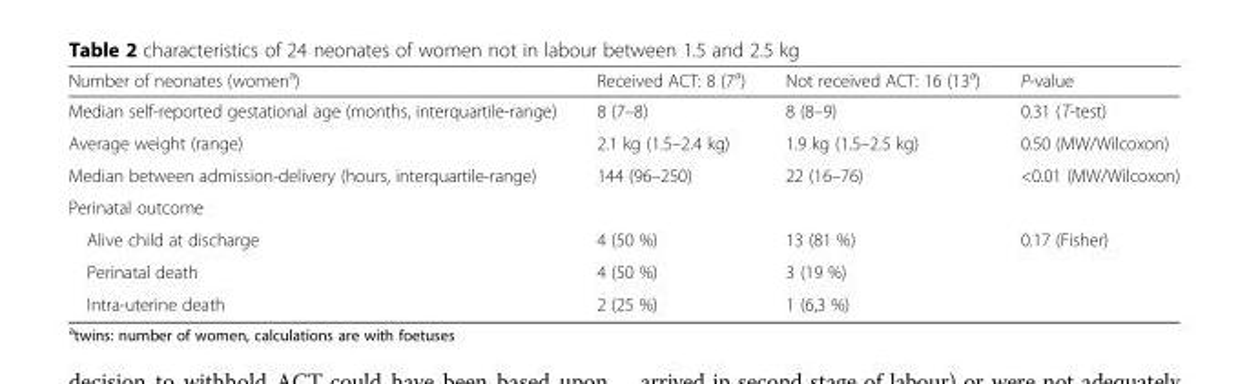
<table><thead><tr><td>Number of neonates (women<sup>a</sup>)</td><td>Received ACT: 8 (7<sup>a</sup>)</td><td>Not received ACT: 16 (13<sup>a</sup>)</td><td>P-value</td></tr></thead><tbody><tr><td>Median self-reported gestational age (months, interquartile-range)</td><td>8 (7–8)</td><td>8 (8–9)</td><td>0.31 (T-test)</td></tr><tr><td>Average weight (range)</td><td>2.1 kg (1.5–2.4 kg)</td><td>1.9 kg (1.5–2.5 kg)</td><td>0.50 (MW/Wilcoxon)</td></tr><tr><td>Median between admission-delivery (hours, interquartile-range)</td><td>144 (96–250)</td><td>22 (16–76)</td><td>&lt;0.01 (MW/Wilcoxon)</td></tr><tr><td colspan="4">Perinatal outcome</td></tr><tr><td>Alive child at discharge</td><td>4 (50 %)</td><td>13 (81 %)</td><td rowspan="3">0.17 (Fisher)</td></tr><tr><td>Perinatal death</td><td>4 (50 %)</td><td>3 (19 %)</td></tr><tr><td>Intra-uterine death</td><td>2 (25 %)</td><td>1 (6,3 %)</td></tr></tbody></table>